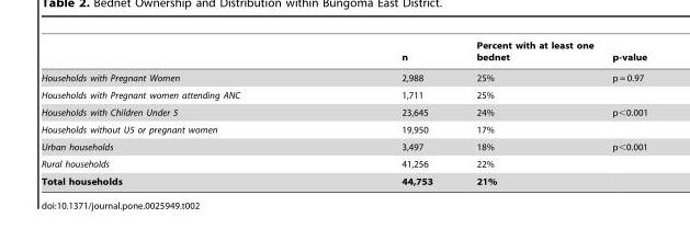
<table><thead><tr><td></td><td>n</td><td>Percent with at least one bednet</td><td>p-value</td></tr></thead><tbody><tr><td>Households with Pregnant Women</td><td>2,988</td><td>25%</td><td>p = 0.97</td></tr><tr><td>Households with Pregnant women attending ANC</td><td>1,711</td><td>25%</td><td></td></tr><tr><td>Households with Children Under 5</td><td>23,645</td><td>24%</td><td>p&lt;0.001</td></tr><tr><td>Households without U5 or pregnant women</td><td>19,950</td><td>17%</td><td></td></tr><tr><td>Urban households</td><td>3,497</td><td>18%</td><td>p&lt;0.001</td></tr><tr><td>Rural households</td><td>41,256</td><td>22%</td><td></td></tr><tr><td>Total households</td><td>44,753</td><td>21%</td><td></td></tr></tbody></table>